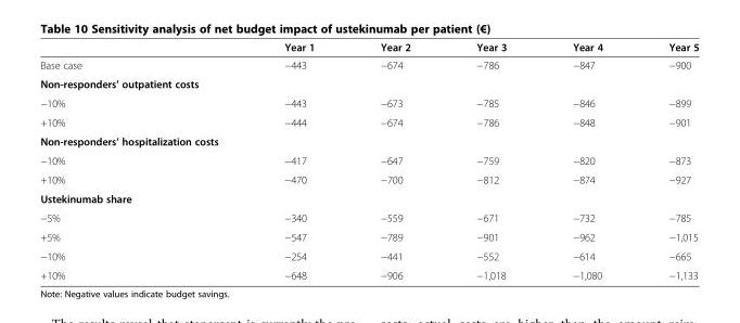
<table><thead><tr><td></td><td>Year 1</td><td>Year 2</td><td>Year 3</td><td>Year 4</td><td>Year 5</td></tr></thead><tbody><tr><td>Base case</td><td>−443</td><td>−674</td><td>−786</td><td>−847</td><td>−900</td></tr><tr><td colspan="6">Non-responders’ outpatient costs</td></tr><tr><td>−10%</td><td>−443</td><td>−673</td><td>−785</td><td>−846</td><td>−899</td></tr><tr><td>+10%</td><td>−444</td><td>−674</td><td>−786</td><td>−848</td><td>−901</td></tr><tr><td colspan="6">Non-responders’ hospitalization costs</td></tr><tr><td>−10%</td><td>−417</td><td>−647</td><td>−759</td><td>−820</td><td>−873</td></tr><tr><td>+10%</td><td>−470</td><td>−700</td><td>−812</td><td>−874</td><td>−927</td></tr><tr><td colspan="6">Ustekinumab share</td></tr><tr><td>−5%</td><td>−340</td><td>−559</td><td>−671</td><td>−732</td><td>−785</td></tr><tr><td>+5%</td><td>−547</td><td>−789</td><td>−901</td><td>−962</td><td>−1,015</td></tr><tr><td>−10%</td><td>−254</td><td>−441</td><td>−552</td><td>−614</td><td>−665</td></tr><tr><td>+10%</td><td>−648</td><td>−906</td><td>−1,018</td><td>−1,080</td><td>−1,133</td></tr></tbody></table>